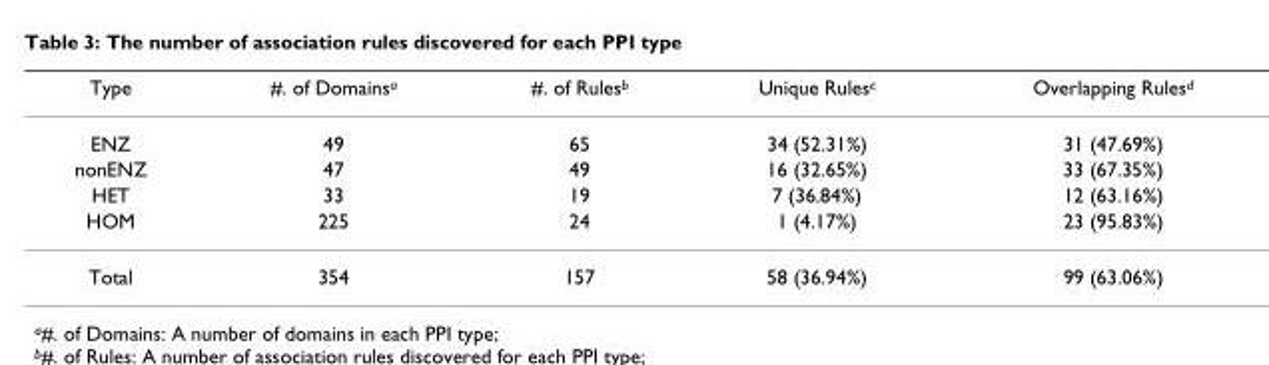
<table><thead><tr><td>Type</td><td>#. of Domains<sup>a</sup></td><td>#. of Rules<sup>b</sup></td><td>Unique Rules<sup>c</sup></td><td>Overlapping Rules<sup>d</sup></td></tr></thead><tbody><tr><td>ENZ</td><td>49</td><td>65</td><td>34 (52.31%)</td><td>31 (47.69%)</td></tr><tr><td>nonENZ</td><td>47</td><td>49</td><td>16 (32.65%)</td><td>33 (67.35%)</td></tr><tr><td>HET</td><td>33</td><td>19</td><td>7 (36.84%)</td><td>12 (63.16%)</td></tr><tr><td>HOM</td><td>225</td><td>24</td><td>1 (4.17%)</td><td>23 (95.83%)</td></tr><tr><td>Total</td><td>354</td><td>157</td><td>58 (36.94%)</td><td>99 (63.06%)</td></tr></tbody></table>